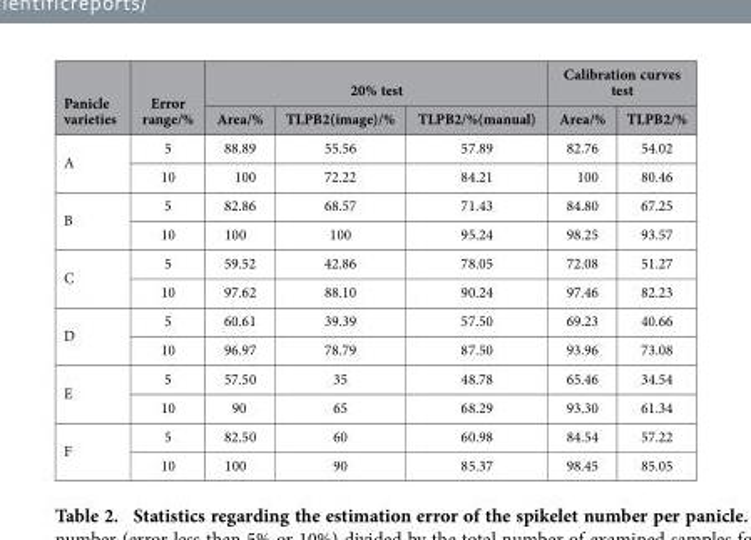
<table><thead><tr><td rowspan="2">Panicle varieties</td><td rowspan="2">Error range/%</td><td colspan="3">20% test</td><td colspan="2">Calibration curves test</td></tr><tr><td>Area/%</td><td>TLPB2(image)/%</td><td>TLPB2/%(manual)</td><td>Area/%</td><td>TLPB2/%</td></tr></thead><tbody><tr><td rowspan="2">A</td><td>5</td><td>88.89</td><td>55.56</td><td>57.89</td><td>82.76</td><td>54.02</td></tr><tr><td>10</td><td>100</td><td>72.22</td><td>84.21</td><td>100</td><td>80.46</td></tr><tr><td rowspan="2">B</td><td>5</td><td>82.86</td><td>68.57</td><td>71.43</td><td>84.80</td><td>67.25</td></tr><tr><td>10</td><td>100</td><td>100</td><td>95.24</td><td>98.25</td><td>93.57</td></tr><tr><td rowspan="2">C</td><td>5</td><td>59.52</td><td>42.86</td><td>78.05</td><td>72.08</td><td>51.27</td></tr><tr><td>10</td><td>97.62</td><td>88.10</td><td>90.24</td><td>97.46</td><td>82.23</td></tr><tr><td rowspan="2">D</td><td>5</td><td>60.61</td><td>39.39</td><td>57.50</td><td>69.23</td><td>40.66</td></tr><tr><td>10</td><td>96.97</td><td>78.79</td><td>87.50</td><td>93.96</td><td>73.08</td></tr><tr><td rowspan="2">E</td><td>5</td><td>57.50</td><td>35</td><td>48.78</td><td>65.46</td><td>34.54</td></tr><tr><td>10</td><td>90</td><td>65</td><td>68.29</td><td>93.30</td><td>61.34</td></tr><tr><td rowspan="2">F</td><td>5</td><td>82.50</td><td>60</td><td>60.98</td><td>84.54</td><td>57.22</td></tr><tr><td>10</td><td>100</td><td>90</td><td>85.37</td><td>98.45</td><td>85.05</td></tr></tbody></table>